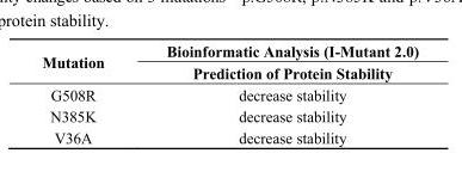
<table><thead><tr><td rowspan="2">Mutation</td><td rowspan="2">Bioinformatic Analysis (I-Mutant 2.0) Prediction of Protein Stability</td></tr><tr></tr></thead><tbody><tr><td>G508R</td><td>decrease stability</td></tr><tr><td>N385K</td><td>decrease stability</td></tr><tr><td>V36A</td><td>decrease stability</td></tr></tbody></table>